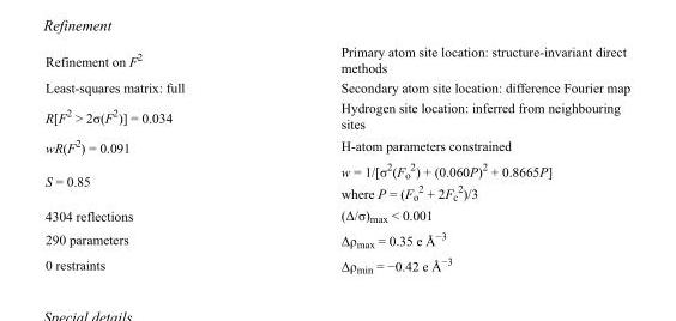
<table><tbody><tr><td>Refinement on F<sup>2</sup></td><td>Primary atom site location: structure-invariant direct methods</td></tr><tr><td>Least-squares matrix: full</td><td>Secondary atom site location: difference Fourier map</td></tr><tr><td>R[F<sup>2</sup> &gt; 2σ(F<sup>2</sup>)] = 0.034</td><td>Hydrogen site location: inferred from neighbouring sites</td></tr><tr><td>wR(F<sup>2</sup>) = 0.091</td><td>H-atom parameters constrained</td></tr><tr><td>S = 0.85</td><td>w = 1/[σ<sup>2</sup>(F<sub>o</sub> <sup>2</sup>) + (0.060P)<sup>2</sup> + 0.8665P] where P = (F<sub>o</sub> <sup>2</sup> + 2F<sub>c</sub> <sup>2</sup>)/3</td></tr><tr><td>4304 reflections</td><td>(Δ/σ)<sub>max</sub> &lt; 0.001</td></tr><tr><td>290 parameters</td><td>Δρ<sub>max</sub> = 0.35 e Å<sup>−3</sup></td></tr><tr><td>0 restraints</td><td>Δρ<sub>min</sub> = −0.42 e Å<sup>−3</sup></td></tr></tbody></table>